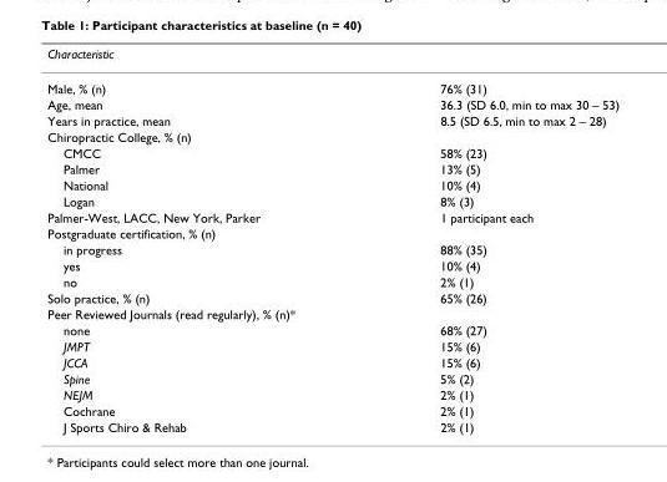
<table><thead><tr><td>Characteristic</td><td></td></tr></thead><tbody><tr><td>Male, % (n)</td><td>76% (31)</td></tr><tr><td>Age, mean</td><td>36.3 (SD 6.0, min to max 30 – 53)</td></tr><tr><td>Years in practice, mean</td><td>8.5 (SD 6.5, min to max 2 – 28)</td></tr><tr><td colspan="2">Chiropractic College, % (n)</td></tr><tr><td>CMCC</td><td>58% (23)</td></tr><tr><td>Palmer</td><td>13% (5)</td></tr><tr><td>National</td><td>10% (4)</td></tr><tr><td>Logan</td><td>8% (3)</td></tr><tr><td>Palmer-West, LACC, New York, Parker</td><td>1 participant each</td></tr><tr><td colspan="2">Postgraduate certification, % (n)</td></tr><tr><td>in progress</td><td>88% (35)</td></tr><tr><td>yes</td><td>10% (4)</td></tr><tr><td>no</td><td>2% (1)</td></tr><tr><td>Solo practice, % (n)</td><td>65% (26)</td></tr><tr><td colspan="2">Peer Reviewed Journals (read regularly), % (n)*</td></tr><tr><td>none</td><td>68% (27)</td></tr><tr><td>JMPT</td><td>15% (6)</td></tr><tr><td>JCCA</td><td>15% (6)</td></tr><tr><td>Spine</td><td>5% (2)</td></tr><tr><td>NEJM</td><td>2% (1)</td></tr><tr><td>Cochrane</td><td>2% (1)</td></tr><tr><td>J Sports Chiro &amp; Rehab</td><td>2% (1)</td></tr></tbody></table>